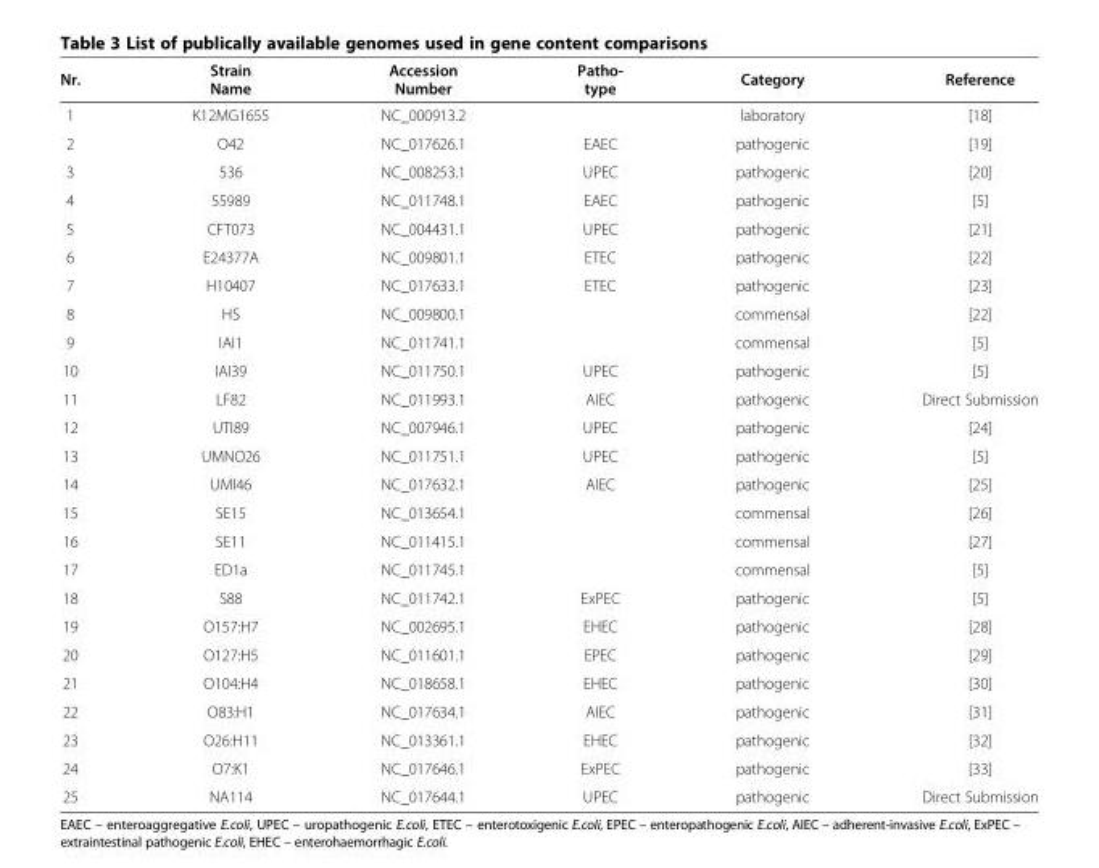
<table><thead><tr><td>Nr.</td><td>Strain Name</td><td>Accession Number</td><td>Patho- type</td><td>Category</td><td>Reference</td></tr></thead><tbody><tr><td>1</td><td>K12MG1655</td><td>NC_000913.2</td><td></td><td>laboratory</td><td>[18]</td></tr><tr><td>2</td><td>O42</td><td>NC_017626.1</td><td>EAEC</td><td>pathogenic</td><td>[19]</td></tr><tr><td>3</td><td>536</td><td>NC_008253.1</td><td>UPEC</td><td>pathogenic</td><td>[20]</td></tr><tr><td>4</td><td>55989</td><td>NC_011748.1</td><td>EAEC</td><td>pathogenic</td><td>[5]</td></tr><tr><td>5</td><td>CFT073</td><td>NC_004431.1</td><td>UPEC</td><td>pathogenic</td><td>[21]</td></tr><tr><td>6</td><td>E24377A</td><td>NC_009801.1</td><td>ETEC</td><td>pathogenic</td><td>[22]</td></tr><tr><td>7</td><td>H10407</td><td>NC_017633.1</td><td>ETEC</td><td>pathogenic</td><td>[23]</td></tr><tr><td>8</td><td>HS</td><td>NC_009800.1</td><td></td><td>commensal</td><td>[22]</td></tr><tr><td>9</td><td>IAI1</td><td>NC_011741.1</td><td></td><td>commensal</td><td>[5]</td></tr><tr><td>10</td><td>IAI39</td><td>NC_011750.1</td><td>UPEC</td><td>pathogenic</td><td>[5]</td></tr><tr><td>11</td><td>LF82</td><td>NC_011993.1</td><td>AIEC</td><td>pathogenic</td><td>Direct Submission</td></tr><tr><td>12</td><td>UTI89</td><td>NC_007946.1</td><td>UPEC</td><td>pathogenic</td><td>[24]</td></tr><tr><td>13</td><td>UMNO26</td><td>NC_011751.1</td><td>UPEC</td><td>pathogenic</td><td>[5]</td></tr><tr><td>14</td><td>UMI46</td><td>NC_017632.1</td><td>AIEC</td><td>pathogenic</td><td>[25]</td></tr><tr><td>15</td><td>SE15</td><td>NC_013654.1</td><td></td><td>commensal</td><td>[26]</td></tr><tr><td>16</td><td>SE11</td><td>NC_011415.1</td><td></td><td>commensal</td><td>[27]</td></tr><tr><td>17</td><td>ED1a</td><td>NC_011745.1</td><td></td><td>commensal</td><td>[5]</td></tr><tr><td>18</td><td>S88</td><td>NC_011742.1</td><td>ExPEC</td><td>pathogenic</td><td>[5]</td></tr><tr><td>19</td><td>O157:H7</td><td>NC_002695.1</td><td>EHEC</td><td>pathogenic</td><td>[28]</td></tr><tr><td>20</td><td>O127:H5</td><td>NC_011601.1</td><td>EPEC</td><td>pathogenic</td><td>[29]</td></tr><tr><td>21</td><td>O104:H4</td><td>NC_018658.1</td><td>EHEC</td><td>pathogenic</td><td>[30]</td></tr><tr><td>22</td><td>O83:H1</td><td>NC_017634.1</td><td>AIEC</td><td>pathogenic</td><td>[31]</td></tr><tr><td>23</td><td>O26:H11</td><td>NC_013361.1</td><td>EHEC</td><td>pathogenic</td><td>[32]</td></tr><tr><td>24</td><td>O7:K1</td><td>NC_017646.1</td><td>ExPEC</td><td>pathogenic</td><td>[33]</td></tr><tr><td>25</td><td>NA114</td><td>NC_017644.1</td><td>UPEC</td><td>pathogenic</td><td>Direct Submission</td></tr></tbody></table>